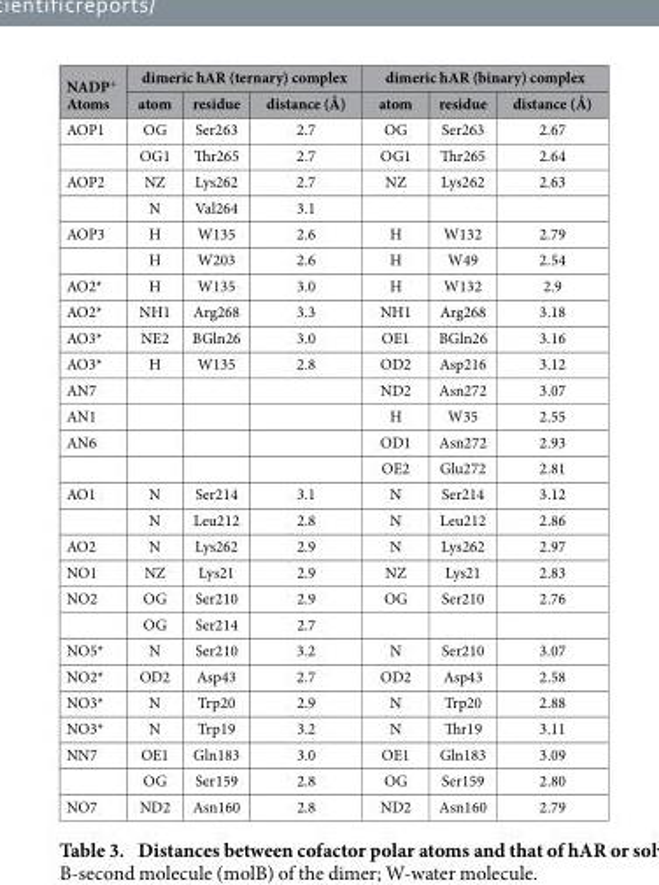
<table><thead><tr><td rowspan="2">NADP<sup>+</sup> Atoms</td><td colspan="3">dimeric hAR (ternary) complex</td><td colspan="3">dimeric hAR (binary) complex</td></tr><tr><td>atom</td><td>residue</td><td>distance (Å)</td><td>atom</td><td>residue</td><td>distance (Å)</td></tr></thead><tbody><tr><td rowspan="2">AOP1</td><td>OG</td><td>Ser263</td><td>2.7</td><td>OG</td><td>Ser263</td><td>2.67</td></tr><tr><td>OG1</td><td>Thr265</td><td>2.7</td><td>OG1</td><td>Thr265</td><td>2.64</td></tr><tr><td rowspan="2">AOP2</td><td>NZ</td><td>Lys262</td><td>2.7</td><td>NZ</td><td>Lys262</td><td>2.63</td></tr><tr><td>N</td><td>Val264</td><td>3.1</td><td></td><td></td><td></td></tr><tr><td rowspan="2">AOP3</td><td>H</td><td>W135</td><td>2.6</td><td>H</td><td>W132</td><td>2.79</td></tr><tr><td>H</td><td>W203</td><td>2.6</td><td>H</td><td>W49</td><td>2.54</td></tr><tr><td>AO2*</td><td>H</td><td>W135</td><td>3.0</td><td>H</td><td>W132</td><td>2.9</td></tr><tr><td>AO2*</td><td>NH1</td><td>Arg268</td><td>3.3</td><td>NH1</td><td>Arg268</td><td>3.18</td></tr><tr><td>AO3*</td><td>NE2</td><td>BGln26</td><td>3.0</td><td>OE1</td><td>BGln26</td><td>3.16</td></tr><tr><td>AO3*</td><td>H</td><td>W135</td><td>2.8</td><td>OD2</td><td>Asp216</td><td>3.12</td></tr><tr><td>AN7</td><td></td><td></td><td></td><td>ND2</td><td>Asn272</td><td>3.07</td></tr><tr><td>AN1</td><td></td><td></td><td></td><td>H</td><td>W35</td><td>2.55</td></tr><tr><td rowspan="2">AN6</td><td></td><td></td><td></td><td>OD1</td><td>Asn272</td><td>2.93</td></tr><tr><td></td><td></td><td></td><td>OE2</td><td>Glu272</td><td>2.81</td></tr><tr><td rowspan="2">AO1</td><td>N</td><td>Ser214</td><td>3.1</td><td>N</td><td>Ser214</td><td>3.12</td></tr><tr><td>N</td><td>Leu212</td><td>2.8</td><td>N</td><td>Leu212</td><td>2.86</td></tr><tr><td>AO2</td><td>N</td><td>Lys262</td><td>2.9</td><td>N</td><td>Lys262</td><td>2.97</td></tr><tr><td>NO1</td><td>NZ</td><td>Lys21</td><td>2.9</td><td>NZ</td><td>Lys21</td><td>2.83</td></tr><tr><td rowspan="2">NO2</td><td>OG</td><td>Ser210</td><td>2.9</td><td>OG</td><td>Ser210</td><td>2.76</td></tr><tr><td>OG</td><td>Ser214</td><td>2.7</td><td></td><td></td><td></td></tr><tr><td>NO5*</td><td>N</td><td>Ser210</td><td>3.2</td><td>N</td><td>Ser210</td><td>3.07</td></tr><tr><td>NO2*</td><td>OD2</td><td>Asp43</td><td>2.7</td><td>OD2</td><td>Asp43</td><td>2.58</td></tr><tr><td>NO3*</td><td>N</td><td>Trp20</td><td>2.9</td><td>N</td><td>Trp20</td><td>2.88</td></tr><tr><td>NO3*</td><td>N</td><td>Trp19</td><td>3.2</td><td>N</td><td>Thr19</td><td>3.11</td></tr><tr><td rowspan="2">NN7</td><td>OE1</td><td>Gln183</td><td>3.0</td><td>OE1</td><td>Gln183</td><td>3.09</td></tr><tr><td>OG</td><td>Ser159</td><td>2.8</td><td>OG</td><td>Ser159</td><td>2.80</td></tr><tr><td>NO7</td><td>ND2</td><td>Asn160</td><td>2.8</td><td>ND2</td><td>Asn160</td><td>2.79</td></tr></tbody></table>